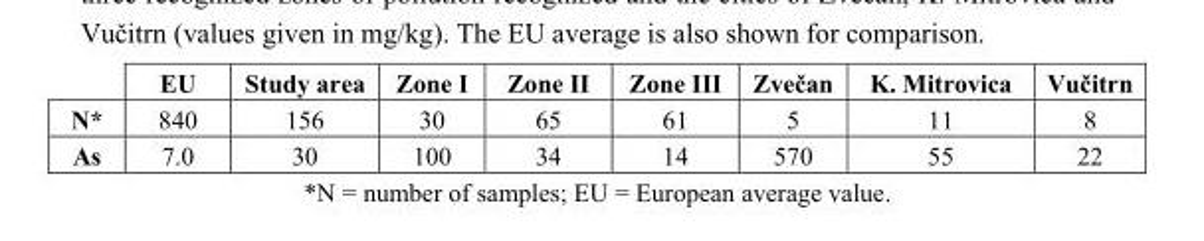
<table><thead><tr><td></td><td>EU</td><td>Study area</td><td>Zone I</td><td>Zone II</td><td>Zone III</td><td>Zvečan</td><td>K. Mitrovica</td><td>Vučitrn</td></tr></thead><tbody><tr><td>N*</td><td>840</td><td>156</td><td>30</td><td>65</td><td>61</td><td>5</td><td>11</td><td>8</td></tr><tr><td>As</td><td>7.0</td><td>30</td><td>100</td><td>34</td><td>14</td><td>570</td><td>55</td><td>22</td></tr></tbody></table>